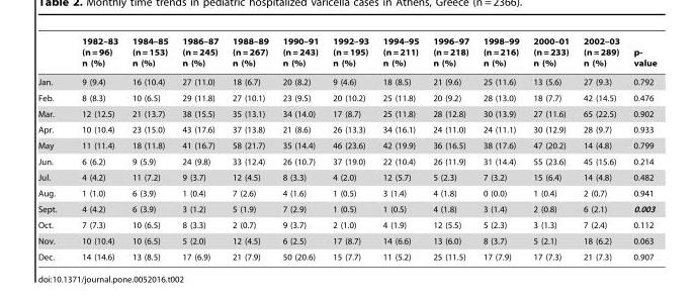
<table><thead><tr><td></td><td>1982–83 (n = 96) n (%)</td><td>1984–85 (n = 153) n (%)</td><td>1986–87 (n = 245) n (%)</td><td>1988–89 (n = 267) n (%)</td><td>1990–91 (n = 243) n (%)</td><td>1992–93 (n = 195) n (%)</td><td>1994–95 (n = 211) n (%)</td><td>1996–97 (n = 218) n (%)</td><td>1998–99 (n = 216) n (%)</td><td>2000–01 (n = 233) n (%)</td><td>2002–03 (n = 289) n (%)</td><td>p- value</td></tr></thead><tbody><tr><td>Jan.</td><td>9 (9.4)</td><td>16 (10.4)</td><td>27 (11.0)</td><td>18 (6.7)</td><td>20 (8.2)</td><td>9 (4.6)</td><td>18 (8.5)</td><td>21 (9.6)</td><td>25 (11.6)</td><td>13 (5.6)</td><td>27 (9.3)</td><td>0.792</td></tr><tr><td>Feb.</td><td>8 (8.3)</td><td>10 (6.5)</td><td>29 (11.8)</td><td>27 (10.1)</td><td>23 (9.5)</td><td>20 (10.2)</td><td>25 (11.8)</td><td>20 (9.2)</td><td>28 (13.0)</td><td>18 (7.7)</td><td>42 (14.5)</td><td>0.476</td></tr><tr><td>Mar.</td><td>12 (12.5)</td><td>21 (13.7)</td><td>38 (15.5)</td><td>35 (13.1)</td><td>34 (14.0)</td><td>17 (8.7)</td><td>25 (11.8)</td><td>28 (12.8)</td><td>30 (13.9)</td><td>27 (11.6)</td><td>65 (22.5)</td><td>0.902</td></tr><tr><td>Apr.</td><td>10 (10.4)</td><td>23 (15.0)</td><td>43 (17.6)</td><td>37 (13.8)</td><td>21 (8.6)</td><td>26 (13.3)</td><td>34 (16.1)</td><td>24 (11.0)</td><td>24 (11.1)</td><td>30 (12.9)</td><td>28 (9.7)</td><td>0.933</td></tr><tr><td>May</td><td>11 (11.4)</td><td>18 (11.8)</td><td>41 (16.7)</td><td>58 (21.7)</td><td>35 (14.4)</td><td>46 (23.6)</td><td>42 (19.9)</td><td>36 (16.5)</td><td>38 (17.6)</td><td>47 (20.2)</td><td>14 (4.8)</td><td>0.799</td></tr><tr><td>Jun.</td><td>6 (6.2)</td><td>9 (5.9)</td><td>24 (9.8)</td><td>33 (12.4)</td><td>26 (10.7)</td><td>37 (19.0)</td><td>22 (10.4)</td><td>26 (11.9)</td><td>31 (14.4)</td><td>55 (23.6)</td><td>45 (15.6)</td><td>0.214</td></tr><tr><td>Jul.</td><td>4 (4.2)</td><td>11 (7.2)</td><td>9 (3.7)</td><td>12 (4.5)</td><td>8 (3.3)</td><td>4 (2.0)</td><td>12 (5.7)</td><td>5 (2.3)</td><td>7 (3.2)</td><td>15 (6.4)</td><td>14 (4.8)</td><td>0.482</td></tr><tr><td>Aug.</td><td>1 (1.0)</td><td>6 (3.9)</td><td>1 (0.4)</td><td>7 (2.6)</td><td>4 (1.6)</td><td>1 (0.5)</td><td>3 (1.4)</td><td>4 (1.8)</td><td>0 (0.0)</td><td>1 (0.4)</td><td>2 (0.7)</td><td>0.941</td></tr><tr><td>Sept.</td><td>4 (4.2)</td><td>6 (3.9)</td><td>3 (1.2)</td><td>5 (1.9)</td><td>7 (2.9)</td><td>1 (0.5)</td><td>1 (0.5)</td><td>4 (1.8)</td><td>3 (1.4)</td><td>2 (0.8)</td><td>6 (2.1)</td><td>0.003</td></tr><tr><td>Oct.</td><td>7 (7.3)</td><td>10 (6.5)</td><td>8 (3.3)</td><td>2 (0.7)</td><td>9 (3.7)</td><td>2 (1.0)</td><td>4 (1.9)</td><td>12 (5.5)</td><td>5 (2.3)</td><td>3 (1.3)</td><td>7 (2.4)</td><td>0.112</td></tr><tr><td>Nov.</td><td>10 (10.4)</td><td>10 (6.5)</td><td>5 (2.0)</td><td>12 (4.5)</td><td>6 (2.5)</td><td>17 (8.7)</td><td>14 (6.6)</td><td>13 (6.0)</td><td>8 (3.7)</td><td>5 (2.1)</td><td>18 (6.2)</td><td>0.063</td></tr><tr><td>Dec.</td><td>14 (14.6)</td><td>13 (8.5)</td><td>17 (6.9)</td><td>21 (7.9)</td><td>50 (20.6)</td><td>15 (7.7)</td><td>11 (5.2)</td><td>25 (11.5)</td><td>17 (7.9)</td><td>17 (7.3)</td><td>21 (7.3)</td><td>0.907</td></tr></tbody></table>